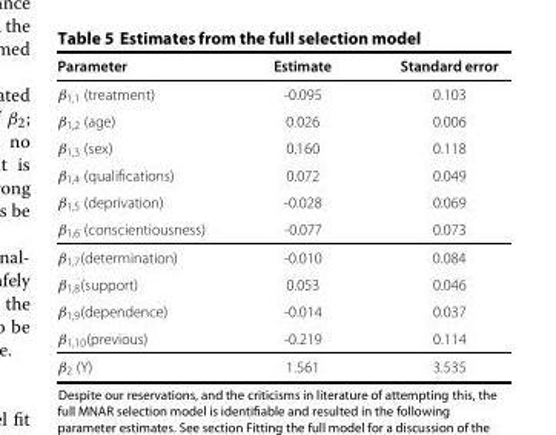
<table><thead><tr><td>Parameter</td><td>Estimate</td><td>Standard error</td></tr></thead><tbody><tr><td>β<sub>1,1</sub> (treatment)</td><td>-0.095</td><td>0.103</td></tr><tr><td>β<sub>1,2</sub> (age)</td><td>0.026</td><td>0.006</td></tr><tr><td>β<sub>1,3</sub> (sex)</td><td>0.160</td><td>0.118</td></tr><tr><td>β<sub>1,4</sub> (qualifications)</td><td>0.072</td><td>0.049</td></tr><tr><td>β<sub>1,5</sub> (deprivation)</td><td>-0.028</td><td>0.069</td></tr><tr><td>β<sub>1,6</sub> (conscientiousness)</td><td>-0.077</td><td>0.073</td></tr><tr><td>β<sub>1,7</sub>(determination)</td><td>-0.010</td><td>0.084</td></tr><tr><td>β<sub>1,8</sub>(support)</td><td>0.053</td><td>0.046</td></tr><tr><td>β<sub>1,9</sub>(dependence)</td><td>-0.014</td><td>0.037</td></tr><tr><td>β<sub>1,10</sub>(previous)</td><td>-0.219</td><td>0.114</td></tr><tr><td>β<sub>2</sub> (Y)</td><td>1.561</td><td>3.535</td></tr></tbody></table>